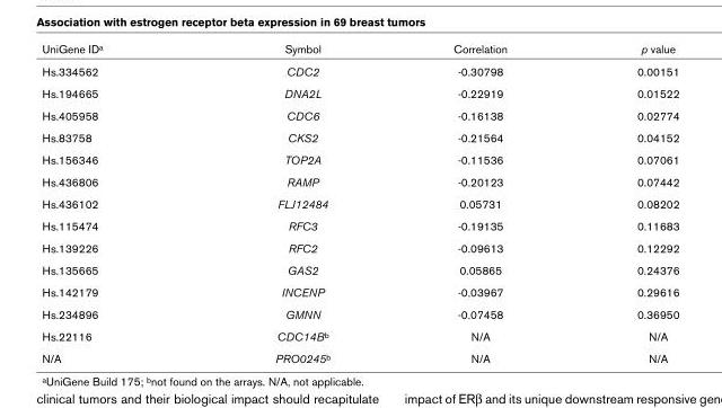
<table><thead><tr><td>UniGene IDa</td><td>Symbol</td><td>Correlation</td><td>p value</td></tr></thead><tbody><tr><td>Hs.334562</td><td>CDC2</td><td>-0.30798</td><td>0.00151</td></tr><tr><td>Hs.194665</td><td>DNA2L</td><td>-0.22919</td><td>0.01522</td></tr><tr><td>Hs.405958</td><td>CDC6</td><td>-0.16138</td><td>0.02774</td></tr><tr><td>Hs.83758</td><td>CKS2</td><td>-0.21564</td><td>0.04152</td></tr><tr><td>Hs.156346</td><td>TOP2A</td><td>-0.11536</td><td>0.07061</td></tr><tr><td>Hs.436806</td><td>RAMP</td><td>-0.20123</td><td>0.07442</td></tr><tr><td>Hs.436102</td><td>FLJ12484</td><td>0.05731</td><td>0.08202</td></tr><tr><td>Hs.115474</td><td>RFC3</td><td>-0.19135</td><td>0.11683</td></tr><tr><td>Hs.139226</td><td>RFC2</td><td>-0.09613</td><td>0.12292</td></tr><tr><td>Hs.135665</td><td>GAS2</td><td>0.05865</td><td>0.24376</td></tr><tr><td>Hs.142179</td><td>INCENP</td><td>-0.03967</td><td>0.29616</td></tr><tr><td>Hs.234896</td><td>GMNN</td><td>-0.07458</td><td>0.36950</td></tr><tr><td>Hs.22116</td><td>CDC14Bb</td><td>N/A</td><td>N/A</td></tr><tr><td>N/A</td><td>PRO0245b</td><td>N/A</td><td>N/A</td></tr></tbody></table>